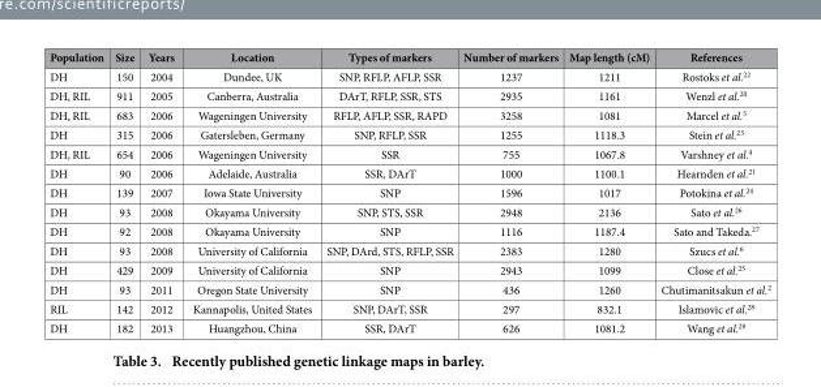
<table><thead><tr><td>Population</td><td>Size</td><td>Years</td><td>Location</td><td>Types of markers</td><td>Number of markers</td><td>Map length (cM)</td><td>References</td></tr></thead><tbody><tr><td>DH</td><td>150</td><td>2004</td><td>Dundee, UK</td><td>SNP, RFLP, AFLP, SSR</td><td>1237</td><td>1211</td><td>Rostoks et al.<sup>22</sup></td></tr><tr><td>DH, RIL</td><td>911</td><td>2005</td><td>Canberra, Australia</td><td>DArT, RFLP, SSR, STS</td><td>2935</td><td>1161</td><td>Wenzl et al.<sup>20</sup></td></tr><tr><td>DH, RIL</td><td>683</td><td>2006</td><td>Wageningen University</td><td>RFLP, AFLP, SSR, RAPD</td><td>3258</td><td>1081</td><td>Marcel et al.<sup>5</sup></td></tr><tr><td>DH</td><td>315</td><td>2006</td><td>Gatersleben, Germany</td><td>SNP, RFLP, SSR</td><td>1255</td><td>1118.3</td><td>Stein et al.<sup>23</sup></td></tr><tr><td>DH, RIL</td><td>654</td><td>2006</td><td>Wageningen University</td><td>SSR</td><td>755</td><td>1067.8</td><td>Varshney et al.<sup>4</sup></td></tr><tr><td>DH</td><td>90</td><td>2006</td><td>Adelaide, Australia</td><td>SSR, DArT</td><td>1000</td><td>1100.1</td><td>Hearnden et al.<sup>21</sup></td></tr><tr><td>DH</td><td>139</td><td>2007</td><td>Iowa State University</td><td>SNP</td><td>1596</td><td>1017</td><td>Potokina et al.<sup>24</sup></td></tr><tr><td>DH</td><td>93</td><td>2008</td><td>Okayama University</td><td>SNP, STS, SSR</td><td>2948</td><td>2136</td><td>Sato et al.<sup>26</sup></td></tr><tr><td>DH</td><td>92</td><td>2008</td><td>Okayama University</td><td>SNP</td><td>1116</td><td>1187.4</td><td>Sato and Takeda.<sup>27</sup></td></tr><tr><td>DH</td><td>93</td><td>2008</td><td>University of California</td><td>SNP, DArd, STS, RFLP, SSR</td><td>2383</td><td>1280</td><td>Szucs et al.<sup>6</sup></td></tr><tr><td>DH</td><td>429</td><td>2009</td><td>University of California</td><td>SNP</td><td>2943</td><td>1099</td><td>Close et al.<sup>25</sup></td></tr><tr><td>DH</td><td>93</td><td>2011</td><td>Oregon State University</td><td>SNP</td><td>436</td><td>1260</td><td>Chutimanitsakun et al.<sup>2</sup></td></tr><tr><td>RIL</td><td>142</td><td>2012</td><td>Kannapolis, United States</td><td>SNP, DArT, SSR</td><td>297</td><td>832.1</td><td>Islamovic et al.<sup>28</sup></td></tr><tr><td>DH</td><td>182</td><td>2013</td><td>Huangzhou, China</td><td>SSR, DArT</td><td>626</td><td>1081.2</td><td>Wang et al.<sup>29</sup></td></tr></tbody></table>